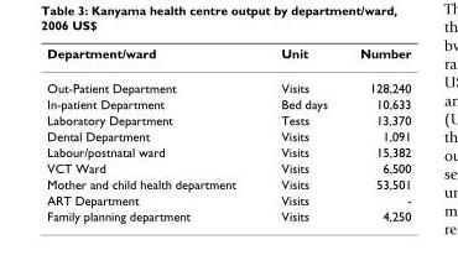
<table><thead><tr><td>Department/ward</td><td>Unit</td><td>Number</td></tr></thead><tbody><tr><td>Out-Patient Department</td><td>Visits</td><td>128,240</td></tr><tr><td>In-patient Department</td><td>Bed days</td><td>10,633</td></tr><tr><td>Laboratory Department</td><td>Tests</td><td>13,370</td></tr><tr><td>Dental Department</td><td>Visits</td><td>1,091</td></tr><tr><td>Labour/postnatal ward</td><td>Visits</td><td>15,382</td></tr><tr><td>VCT Ward</td><td>Visits</td><td>6,500</td></tr><tr><td>Mother and child health department</td><td>Visits</td><td>53,501</td></tr><tr><td>ART Department</td><td>Visits</td><td>-</td></tr><tr><td>Family planning department</td><td>Visits</td><td>4,250</td></tr></tbody></table>